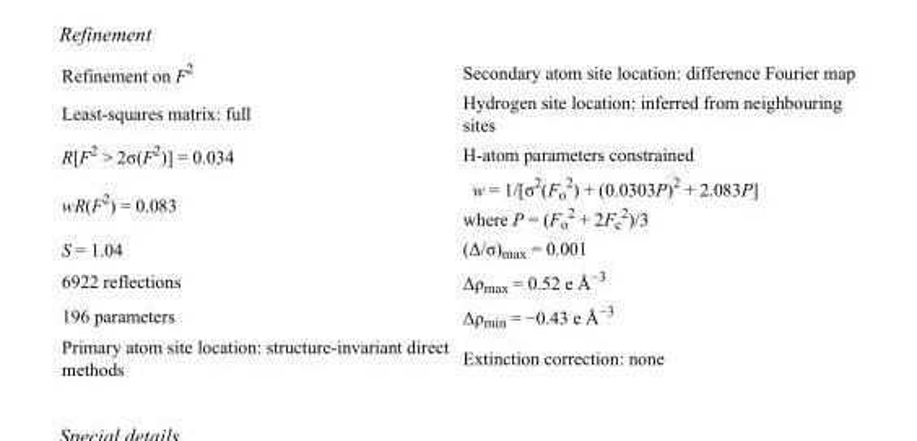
<table><tbody><tr><td>Refinement on F<sup>2</sup></td><td>Secondary atom site location: difference Fourier map</td></tr><tr><td>Least-squares matrix: full</td><td>Hydrogen site location: inferred from neighbouring sites</td></tr><tr><td>R[F<sup>2</sup> &gt; 2σ(F<sup>2</sup>)] = 0.034</td><td>H-atom parameters constrained</td></tr><tr><td>wR(F<sup>2</sup>) = 0.083</td><td>w = 1/[σ<sup>2</sup>(F<sub>o</sub> <sup>2</sup>) + (0.0303P)<sup>2</sup> + 2.083P] where P = (F<sub>o</sub> <sup>2</sup> + 2F<sub>c</sub> <sup>2</sup>)/3</td></tr><tr><td>S = 1.04</td><td>(Δ/σ)<sub>max</sub> = 0.001</td></tr><tr><td>6922 reflections</td><td>Δρ<sub>max</sub> = 0.52 e Å<sup>−3</sup></td></tr><tr><td>196 parameters</td><td>Δρ<sub>min</sub> = −0.43 e Å<sup>−3</sup></td></tr><tr><td>Primary atom site location: structure-invariant direct methods</td><td>Extinction correction: none</td></tr></tbody></table>